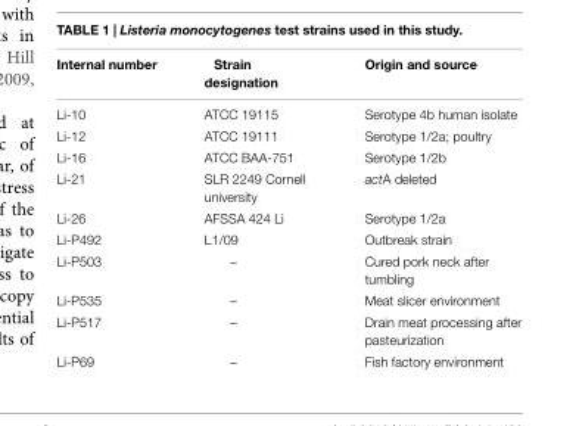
<table><thead><tr><td>Internal number</td><td>Strain designation</td><td>Origin and source</td></tr></thead><tbody><tr><td>Li-10</td><td>ATCC 19115</td><td>Serotype 4b human isolate</td></tr><tr><td>Li-12</td><td>ATCC 19111</td><td>Serotype 1/2a; poultry</td></tr><tr><td>Li-16</td><td>ATCC BAA-751</td><td>Serotype 1/2b</td></tr><tr><td>Li-21</td><td>SLR 2249 Cornell university</td><td>actA deleted</td></tr><tr><td>Li-26</td><td>AFSSA 424 Li</td><td>Serotype 1/2a</td></tr><tr><td>Li-P492</td><td>L1/09</td><td>Outbreak strain</td></tr><tr><td>Li-P503</td><td>–</td><td>Cured pork neck after tumbling</td></tr><tr><td>Li-P535</td><td>–</td><td>Meat slicer environment</td></tr><tr><td>Li-P517</td><td>–</td><td>Drain meat processing after pasteurization</td></tr><tr><td>Li-P69</td><td>–</td><td>Fish factory environment</td></tr></tbody></table>